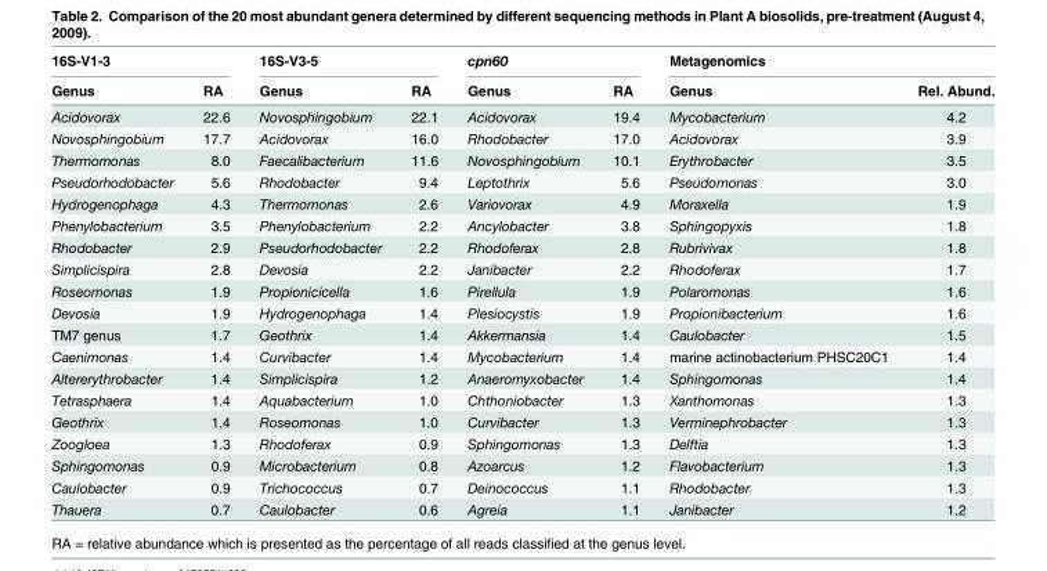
<table><thead><tr><td rowspan="2">16S-V1-3 Genus</td><td rowspan="2">RA</td><td rowspan="2">16S-V3-5 Genus</td><td rowspan="2">RA</td><td rowspan="2">cpn60 Genus</td><td rowspan="2">RA</td><td colspan="2">Metagenomics</td></tr><tr><td>Genus</td><td>Rel. Abund.</td></tr></thead><tbody><tr><td>Acidovorax</td><td>22.6</td><td>Novosphingobium</td><td>22.1</td><td>Acidovorax</td><td>19.4</td><td>Mycobacterium</td><td>4.2</td></tr><tr><td>Novosphingobium</td><td>17.7</td><td>Acidovorax</td><td>16.0</td><td>Rhodobacter</td><td>17.0</td><td>Acidovorax</td><td>3.9</td></tr><tr><td>Thermomonas</td><td>8.0</td><td>Faecalibacterium</td><td>11.6</td><td>Novosphingobium</td><td>10.1</td><td>Erythrobacter</td><td>3.5</td></tr><tr><td>Pseudorhodobacter</td><td>5.6</td><td>Rhodobacter</td><td>9.4</td><td>Leptothrix</td><td>5.6</td><td>Pseudomonas</td><td>3.0</td></tr><tr><td>Hydrogenophaga</td><td>4.3</td><td>Thermomonas</td><td>2.6</td><td>Variovorax</td><td>4.9</td><td>Moraxella</td><td>1.9</td></tr><tr><td>Phenylobacterium</td><td>3.5</td><td>Phenylobacterium</td><td>2.2</td><td>Ancylobacter</td><td>3.8</td><td>Sphingopyxis</td><td>1.8</td></tr><tr><td>Rhodobacter</td><td>2.9</td><td>Pseudorhodobacter</td><td>2.2</td><td>Rhodoferax</td><td>2.8</td><td>Rubrivivax</td><td>1.8</td></tr><tr><td>Simplicispira</td><td>2.8</td><td>Devosia</td><td>2.2</td><td>Janibacter</td><td>2.2</td><td>Rhodoferax</td><td>1.7</td></tr><tr><td>Roseomonas</td><td>1.9</td><td>Propionicicella</td><td>1.6</td><td>Pirellula</td><td>1.9</td><td>Polaromonas</td><td>1.6</td></tr><tr><td>Devosia</td><td>1.9</td><td>Hydrogenophaga</td><td>1.4</td><td>Plesiocystis</td><td>1.9</td><td>Propionibacterium</td><td>1.6</td></tr><tr><td>TM7 genus</td><td>1.7</td><td>Geothrix</td><td>1.4</td><td>Akkermansia</td><td>1.4</td><td>Caulobacter</td><td>1.5</td></tr><tr><td>Caenimonas</td><td>1.4</td><td>Curvibacter</td><td>1.4</td><td>Mycobacterium</td><td>1.4</td><td>marine actinobacterium PHSC20C1</td><td>1.4</td></tr><tr><td>Altererythrobacter</td><td>1.4</td><td>Simplicispira</td><td>1.2</td><td>Anaeromyxobacter</td><td>1.4</td><td>Sphingomonas</td><td>1.4</td></tr><tr><td>Tetrasphaera</td><td>1.4</td><td>Aquabacterium</td><td>1.0</td><td>Chthoniobacter</td><td>1.3</td><td>Xanthomonas</td><td>1.3</td></tr><tr><td>Geothrix</td><td>1.4</td><td>Roseomonas</td><td>1.0</td><td>Curvibacter</td><td>1.3</td><td>Verminephrobacter</td><td>1.3</td></tr><tr><td>Zoogloea</td><td>1.3</td><td>Rhodoferax</td><td>0.9</td><td>Sphingomonas</td><td>1.3</td><td>Delftia</td><td>1.3</td></tr><tr><td>Sphingomonas</td><td>0.9</td><td>Microbacterium</td><td>0.8</td><td>Azoarcus</td><td>1.2</td><td>Flavobacterium</td><td>1.3</td></tr><tr><td>Caulobacter</td><td>0.9</td><td>Trichococcus</td><td>0.7</td><td>Deinococcus</td><td>1.1</td><td>Rhodobacter</td><td>1.3</td></tr><tr><td>Thauera</td><td>0.7</td><td>Caulobacter</td><td>0.6</td><td>Agreia</td><td>1.1</td><td>Janibacter</td><td>1.2</td></tr></tbody></table>